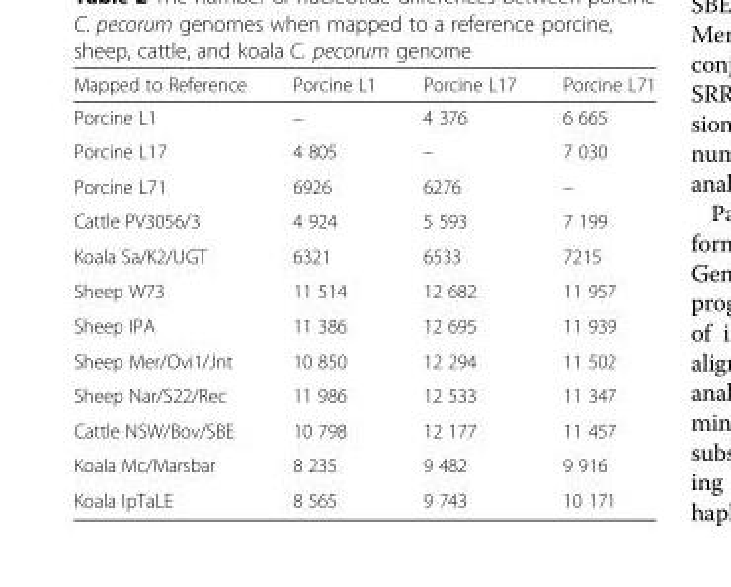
<table><thead><tr><td>Mapped to Reference</td><td>Porcine L1</td><td>Porcine L17</td><td>Porcine L71</td></tr></thead><tbody><tr><td>Porcine L1</td><td>–</td><td>4 376</td><td>6 665</td></tr><tr><td>Porcine L17</td><td>4 805</td><td>–</td><td>7 030</td></tr><tr><td>Porcine L71</td><td>6926</td><td>6276</td><td>–</td></tr><tr><td>Cattle PV3056/3</td><td>4 924</td><td>5 593</td><td>7 199</td></tr><tr><td>Koala Sa/K2/UGT</td><td>6321</td><td>6533</td><td>7215</td></tr><tr><td>Sheep W73</td><td>11 514</td><td>12 682</td><td>11 957</td></tr><tr><td>Sheep IPA</td><td>11 386</td><td>12 695</td><td>11 939</td></tr><tr><td>Sheep Mer/Ovi1/Jnt</td><td>10 850</td><td>12 294</td><td>11 502</td></tr><tr><td>Sheep Nar/S22/Rec</td><td>11 986</td><td>12 533</td><td>11 347</td></tr><tr><td>Cattle NSW/Bov/SBE</td><td>10 798</td><td>12 177</td><td>11 457</td></tr><tr><td>Koala Mc/Marsbar</td><td>8 235</td><td>9 482</td><td>9 916</td></tr><tr><td>Koala IpTaLE</td><td>8 565</td><td>9 743</td><td>10 171</td></tr></tbody></table>